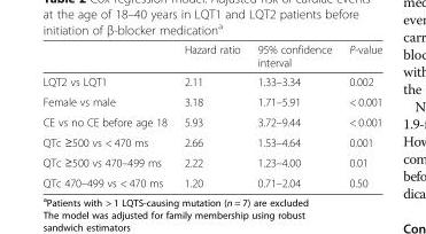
<table><thead><tr><td></td><td>Hazard ratio</td><td>95% confidence interval</td><td>P-value</td></tr></thead><tbody><tr><td>LQT2 vs LQT1</td><td>2.11</td><td>1.33–3.34</td><td>0.002</td></tr><tr><td>Female vs male</td><td>3.18</td><td>1.71–5.91</td><td>&lt; 0.001</td></tr><tr><td>CE vs no CE before age 18</td><td>5.93</td><td>3.72–9.44</td><td>&lt; 0.001</td></tr><tr><td>QTc ≥500 vs &lt; 470 ms</td><td>2.66</td><td>1.53–4.64</td><td>0.001</td></tr><tr><td>QTc ≥500 vs 470–499 ms</td><td>2.22</td><td>1.23–4.00</td><td>0.01</td></tr><tr><td>QTc 470–499 vs &lt; 470 ms</td><td>1.20</td><td>0.71–2.04</td><td>0.50</td></tr></tbody></table>